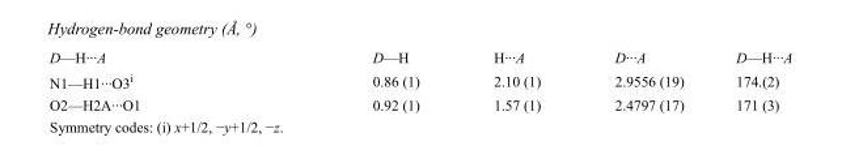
<table><tbody><tr><td>D—H···A</td><td>D—H</td><td>H···A</td><td>D···A</td><td>D—H···A</td></tr><tr><td>N1—H1···O3<sup>i</sup></td><td>0.86 (1)</td><td>2.10 (1)</td><td>2.9556 (19)</td><td>174.(2)</td></tr><tr><td>O2—H2A···O1</td><td>0.92 (1)</td><td>1.57 (1)</td><td>2.4797 (17)</td><td>171 (3)</td></tr></tbody></table>